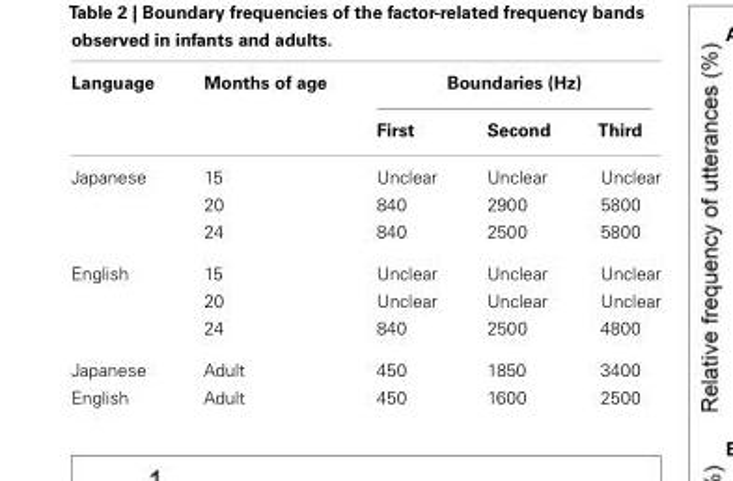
<table><thead><tr><td rowspan="2">Language</td><td rowspan="2">Months of age</td><td colspan="3">Boundaries (Hz)</td></tr><tr><td>First</td><td>Second</td><td>Third</td></tr></thead><tbody><tr><td rowspan="3">Japanese</td><td>15</td><td>Unclear</td><td>Unclear</td><td>Unclear</td></tr><tr><td>20</td><td>840</td><td>2900</td><td>5800</td></tr><tr><td>24</td><td>840</td><td>2500</td><td>5800</td></tr><tr><td rowspan="3">English</td><td>15</td><td>Unclear</td><td>Unclear</td><td>Unclear</td></tr><tr><td>20</td><td>Unclear</td><td>Unclear</td><td>Unclear</td></tr><tr><td>24</td><td>840</td><td>2500</td><td>4800</td></tr><tr><td>Japanese</td><td>Adult</td><td>450</td><td>1850</td><td>3400</td></tr><tr><td>English</td><td>Adult</td><td>450</td><td>1600</td><td>2500</td></tr></tbody></table>